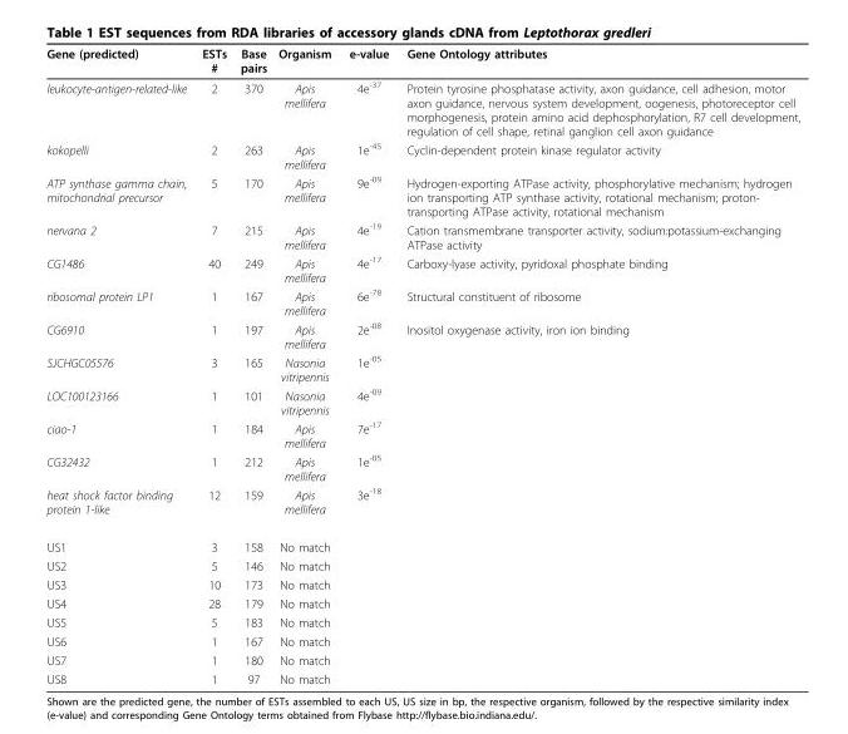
<table><thead><tr><td>Gene (predicted)</td><td>ESTs #</td><td>Base pairs</td><td>Organism</td><td>e-value</td><td>Gene Ontology attributes</td></tr></thead><tbody><tr><td>leukocyte-antigen-related-like</td><td>2</td><td>370</td><td>Apis mellifera</td><td>4e<sup>-37</sup></td><td>Protein tyrosine phosphatase activity, axon guidance, cell adhesion, motor axon guidance, nervous system development, oogenesis, photoreceptor cell morphogenesis, protein amino acid dephosphorylation, R7 cell development, regulation of cell shape, retinal ganglion cell axon guidance</td></tr><tr><td>kokopelli</td><td>2</td><td>263</td><td>Apis mellifera</td><td>1e<sup>-45</sup></td><td>Cyclin-dependent protein kinase regulator activity</td></tr><tr><td>ATP synthase gamma chain, mitochondrial precursor</td><td>5</td><td>170</td><td>Apis mellifera</td><td>9e<sup>-09</sup></td><td>Hydrogen-exporting ATPase activity, phosphorylative mechanism; hydrogen ion transporting ATP synthase activity, rotational mechanism; proton- transporting ATPase activity, rotational mechanism</td></tr><tr><td>nervana 2</td><td>7</td><td>215</td><td>Apis mellifera</td><td>4e<sup>-19</sup></td><td>Cation transmembrane transporter activity, sodium:potassium-exchanging ATPase activity</td></tr><tr><td>CG1486</td><td>40</td><td>249</td><td>Apis mellifera</td><td>4e<sup>-17</sup></td><td>Carboxy-lyase activity, pyridoxal phosphate binding</td></tr><tr><td>ribosomal protein LP1</td><td>1</td><td>167</td><td>Apis mellifera</td><td>6e<sup>-78</sup></td><td>Structural constituent of ribosome</td></tr><tr><td>CG6910</td><td>1</td><td>197</td><td>Apis mellifera</td><td>2e<sup>-08</sup></td><td>Inositol oxygenase activity, iron ion binding</td></tr><tr><td>SJCHGC05576</td><td>3</td><td>165</td><td>Nasonia vitripennis</td><td>1e<sup>-05</sup></td><td></td></tr><tr><td>LOC100123166</td><td>1</td><td>101</td><td>Nasonia vitripennis</td><td>4e<sup>-09</sup></td><td></td></tr><tr><td>ciao-1</td><td>1</td><td>184</td><td>Apis mellifera</td><td>7e<sup>-17</sup></td><td></td></tr><tr><td>CG32432</td><td>1</td><td>212</td><td>Apis mellifera</td><td>1e<sup>-05</sup></td><td></td></tr><tr><td>heat shock factor binding protein 1-like</td><td>12</td><td>159</td><td>Apis mellifera</td><td>3e<sup>-18</sup></td><td></td></tr><tr><td>US1</td><td>3</td><td>158</td><td>No match</td><td></td><td></td></tr><tr><td>US2</td><td>5</td><td>146</td><td>No match</td><td></td><td></td></tr><tr><td>US3</td><td>10</td><td>173</td><td>No match</td><td></td><td></td></tr><tr><td>US4</td><td>28</td><td>179</td><td>No match</td><td></td><td></td></tr><tr><td>US5</td><td>5</td><td>183</td><td>No match</td><td></td><td></td></tr><tr><td>US6</td><td>1</td><td>167</td><td>No match</td><td></td><td></td></tr><tr><td>US7</td><td>1</td><td>180</td><td>No match</td><td></td><td></td></tr><tr><td>US8</td><td>1</td><td>97</td><td>No match</td><td></td><td></td></tr></tbody></table>